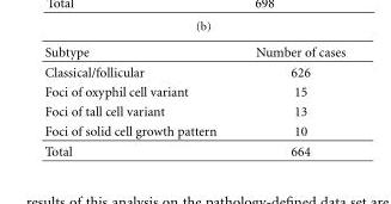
<table><thead><tr><td>Subtype</td><td>Number of cases</td></tr></thead><tbody><tr><td>Classical/follicular</td><td>626</td></tr><tr><td>Foci of oxyphil cell variant</td><td>15</td></tr><tr><td>Foci of tall cell variant</td><td>13</td></tr><tr><td>Foci of solid cell growth pattern</td><td>10</td></tr><tr><td>Total</td><td>664</td></tr></tbody></table>